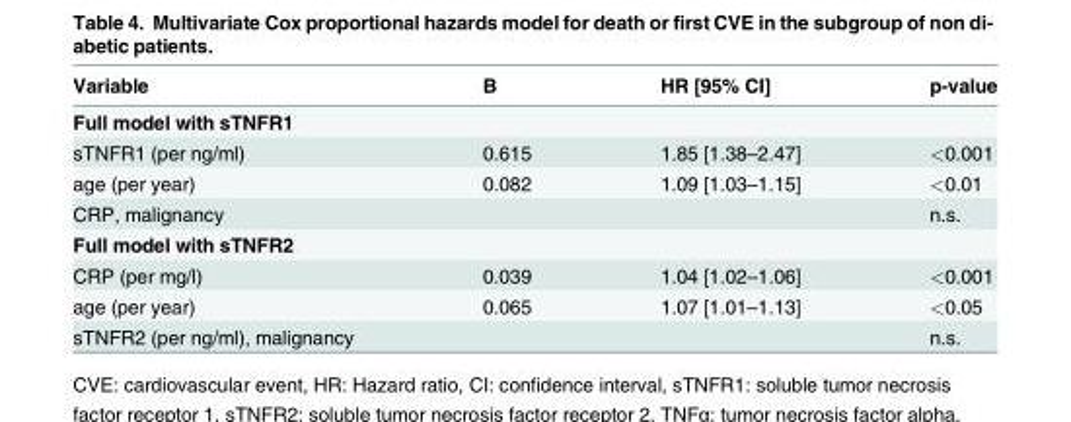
<table><thead><tr><td>Variable</td><td>B</td><td>HR [95% CI]</td><td>p-value</td></tr></thead><tbody><tr><td colspan="4">Full model with sTNFR1</td></tr><tr><td>sTNFR1 (per ng/ml)</td><td>0.615</td><td>1.85 [1.38–2.47]</td><td>&lt;0.001</td></tr><tr><td>age (per year)</td><td>0.082</td><td>1.09 [1.03–1.15]</td><td>&lt;0.01</td></tr><tr><td>CRP, malignancy</td><td></td><td></td><td>n.s.</td></tr><tr><td colspan="4">Full model with sTNFR2</td></tr><tr><td>CRP (per mg/l)</td><td>0.039</td><td>1.04 [1.02–1.06]</td><td>&lt;0.001</td></tr><tr><td>age (per year)</td><td>0.065</td><td>1.07 [1.01–1.13]</td><td>&lt;0.05</td></tr><tr><td>sTNFR2 (per ng/ml), malignancy</td><td></td><td></td><td>n.s.</td></tr></tbody></table>